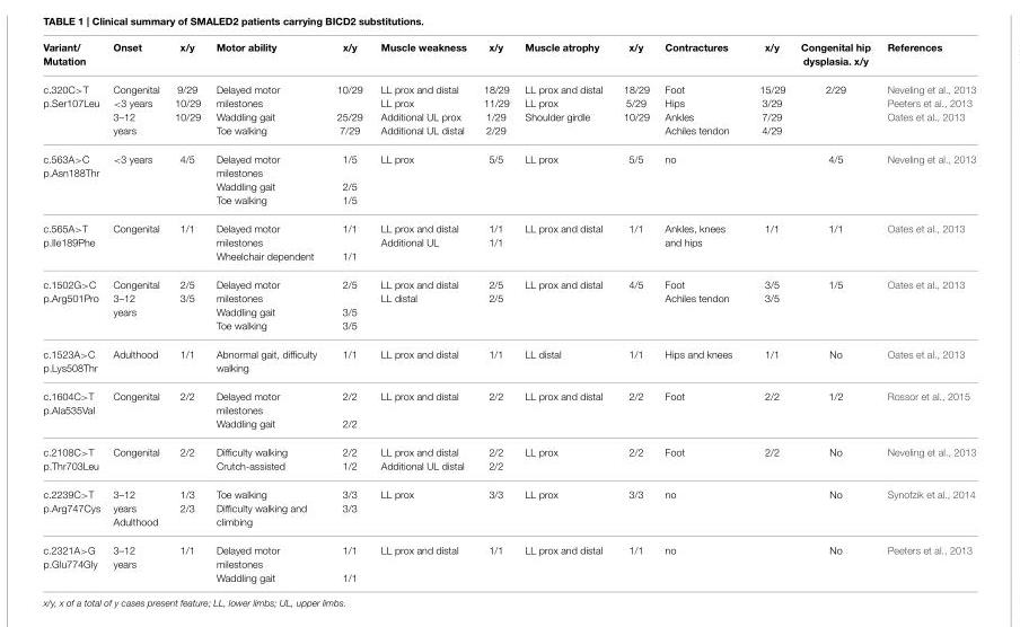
<table><thead><tr><td>Variant/ Mutation</td><td>Onset</td><td>x/y</td><td>Motor ability</td><td>x/y</td><td>Muscle weakness</td><td>x/y</td><td>Muscle atrophy</td><td>x/y</td><td>Contractures</td><td>x/y</td><td>Congenital hip dysplasia. x/y</td><td>References</td></tr></thead><tbody><tr><td>c.320C&gt;T p.Ser107Leu</td><td>Congenital &lt;3 years 3–12 years</td><td>9/29 10/29 10/29</td><td>Delayed motor milestones Waddling gait Toe walking</td><td>10/29 25/29 7/29</td><td>LL prox and distal LL prox Additional UL prox Additional UL distal</td><td>18/29 11/29 1/29 2/29</td><td>LL prox and distal LL prox Shoulder girdle</td><td>18/29 5/29 10/29</td><td>Foot Hips Ankles Achiles tendon</td><td>15/29 3/29 7/29 4/29</td><td>2/29</td><td>Neveling et al., 2013 Peeters et al., 2013 Oates et al., 2013</td></tr><tr><td>c.563A&gt;C p.Asn188Thr</td><td>&lt;3 years</td><td>4/5</td><td>Delayed motor milestones Waddling gait Toe walking</td><td>1/5 2/5 1/5</td><td>LL prox</td><td>5/5</td><td>LL prox</td><td>5/5</td><td>no</td><td></td><td>4/5</td><td>Neveling et al., 2013</td></tr><tr><td>c.565A&gt;T p.Ile189Phe</td><td>Congenital</td><td>1/1</td><td>Delayed motor milestones Wheelchair dependent</td><td>1/1 1/1</td><td>LL prox and distal Additional UL</td><td>1/1 1/1</td><td>LL prox and distal</td><td>1/1</td><td>Ankles, knees and hips</td><td>1/1</td><td>1/1</td><td>Oates et al., 2013</td></tr><tr><td>c.1502G&gt;C p.Arg501Pro</td><td>Congenital 3–12 years</td><td>2/5 3/5</td><td>Delayed motor milestones Waddling gait Toe walking</td><td>2/5 3/5 3/5</td><td>LL prox and distal LL distal</td><td>2/5 2/5</td><td>LL prox and distal</td><td>4/5</td><td>Foot Achiles tendon</td><td>3/5 3/5</td><td>1/5</td><td>Oates et al., 2013</td></tr><tr><td>c.1523A&gt;C p.Lys508Thr</td><td>Adulthood</td><td>1/1</td><td>Abnormal gait, difficulty walking</td><td>1/1</td><td>LL prox and distal</td><td>1/1</td><td>LL distal</td><td>1/1</td><td>Hips and knees</td><td>1/1</td><td>No</td><td>Oates et al., 2013</td></tr><tr><td>c.1604C&gt;T p.Ala535Val</td><td>Congenital</td><td>2/2</td><td>Delayed motor milestones Waddling gait</td><td>2/2 2/2</td><td>LL prox and distal</td><td>2/2</td><td>LL prox and distal</td><td>2/2</td><td>Foot</td><td>2/2</td><td>1/2</td><td>Rossor et al., 2015</td></tr><tr><td>c.2108C&gt;T p.Thr703Leu</td><td>Congenital</td><td>2/2</td><td>Difficulty walking Crutch-assisted</td><td>2/2 1/2</td><td>LL prox and distal Additional UL distal</td><td>2/2 2/2</td><td>LL prox</td><td>2/2</td><td>Foot</td><td>2/2</td><td>No</td><td>Neveling et al., 2013</td></tr><tr><td>c.2239C&gt;T p.Arg747Cys</td><td>3–12 years Adulthood</td><td>1/3 2/3</td><td>Toe walking Difficulty walking and climbing</td><td>3/3 3/3</td><td>LL prox</td><td>3/3</td><td>LL prox</td><td>3/3</td><td>no</td><td></td><td>No</td><td>Synofzik et al., 2014</td></tr><tr><td>c.2321A&gt;G p.Glu774Gly</td><td>3–12 years</td><td>1/1</td><td>Delayed motor milestones Waddling gait</td><td>1/1 1/1</td><td>LL prox and distal</td><td>1/1</td><td>LL prox and distal</td><td>1/1</td><td>no</td><td></td><td>No</td><td>Peeters et al., 2013</td></tr></tbody></table>